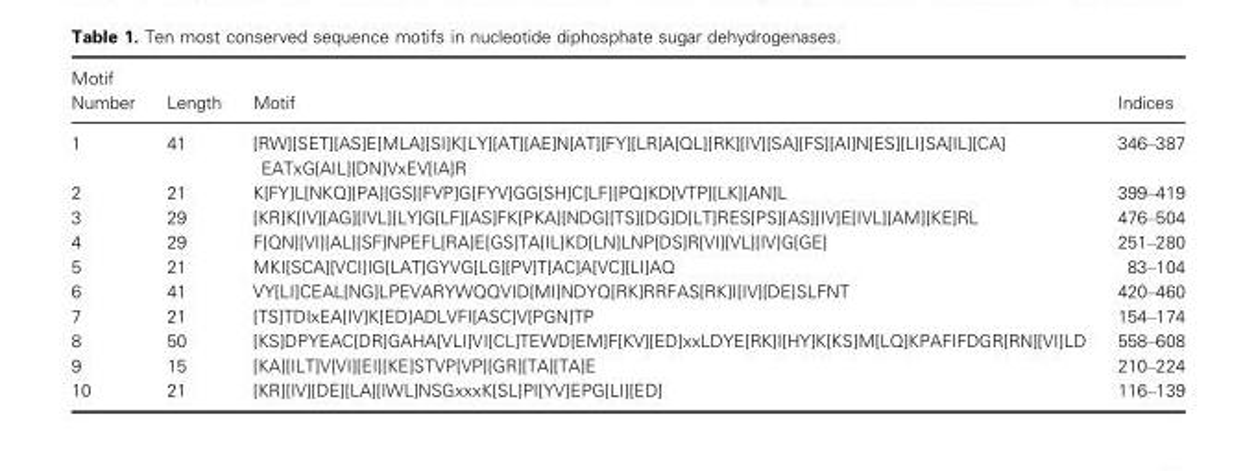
<table><thead><tr><td>Motif Number</td><td>Length</td><td>Motif</td><td>Indices</td></tr></thead><tbody><tr><td>1</td><td>41</td><td>[RW][SET][AS]E[MLA][SI]K[LY][AT][AE]N[AT][FY][LR]A[QL][RK][IV][SA][FS][AI]N[ES][LI]SA[IL][CA] EATxG[AIL][DN]VxEV[IA]R</td><td>346–387</td></tr><tr><td>2</td><td>21</td><td>K[FY]L[NKQ][PA][GS][FVP]G[FYV]GG[SH]C[LF][PQ]KD[VTP][LK][AN]L</td><td>399–419</td></tr><tr><td>3</td><td>29</td><td>[KR]K[IV][AG][IVL][LY]G[LF][AS]FK[PKA][NDG][TS][DG]D[LT]RES[PS][AS][IV]E[IVL][AM][KE]RL</td><td>476–504</td></tr><tr><td>4</td><td>29</td><td>F[QN][VI][AL][SF]NPEFL[RA]E[GS]TA[IL]KD[LN]LNP[DS]R[VI][VL][IV]G[GE]</td><td>251–280</td></tr><tr><td>5</td><td>21</td><td>MKI[SCA][VCI]IG[LAT]GYVG[LG][PV]T[AC]A[VC][LI]AQ</td><td>83–104</td></tr><tr><td>6</td><td>41</td><td>VY[LI]CEAL[NG]LPEVARYWQQVID[MI]NDYQ[RK]RRFAS[RK]I[IV][DE]SLFNT</td><td>420–460</td></tr><tr><td>7</td><td>21</td><td>[TS]TDIxEA[IV]K[ED]ADLVFI[ASC]V[PGN]TP</td><td>154–174</td></tr><tr><td>8</td><td>50</td><td>[KS]DPYEAC[DR]GAHA[VLI]VI[CL]TEWD[EM]F[KV][ED]xxLDYE[RK]I[HY]K[KS]M[LQ]KPAFIFDGR[RN][VI]LD</td><td>558–608</td></tr><tr><td>9</td><td>15</td><td>[KA][ILT]V[VI][EI][KE]STVP[VP][GR][TA][TA]E</td><td>210–224</td></tr><tr><td>10</td><td>21</td><td>[KR][IV][DE][LA][IWL]NSGxxxK[SL]PI[YV]EPG[LI][ED]</td><td>116–139</td></tr></tbody></table>